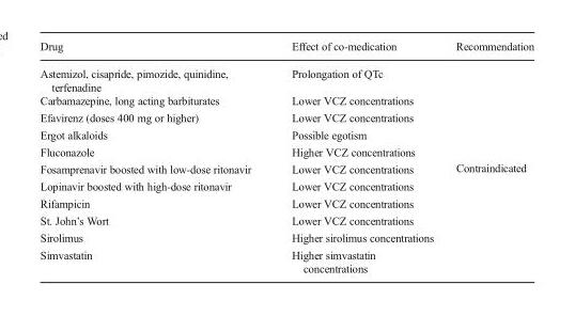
<table><thead><tr><td>Drug</td><td>Effect of co-medication</td><td>Recommendation</td></tr></thead><tbody><tr><td>Astemizol, cisapride, pimozide, quinidine, terfenadine</td><td>Prolongation of QTc</td><td rowspan="11">Contraindicated</td></tr><tr><td>Carbamazepine, long acting barbiturates</td><td>Lower VCZ concentrations</td></tr><tr><td>Efavirenz (doses 400 mg or higher)</td><td>Lower VCZ concentrations</td></tr><tr><td>Ergot alkaloids</td><td>Possible egotism</td></tr><tr><td>Fluconazole</td><td>Higher VCZ concentrations</td></tr><tr><td>Fosamprenavir boosted with low-dose ritonavir</td><td>Lower VCZ concentrations</td></tr><tr><td>Lopinavir boosted with high-dose ritonavir</td><td>Lower VCZ concentrations</td></tr><tr><td>Rifampicin</td><td>Lower VCZ concentrations</td></tr><tr><td>St. John’s Wort</td><td>Lower VCZ concentrations</td></tr><tr><td>Sirolimus</td><td>Higher sirolimus concentrations</td></tr><tr><td>Simvastatin</td><td>Higher simvastatin concentrations</td></tr></tbody></table>